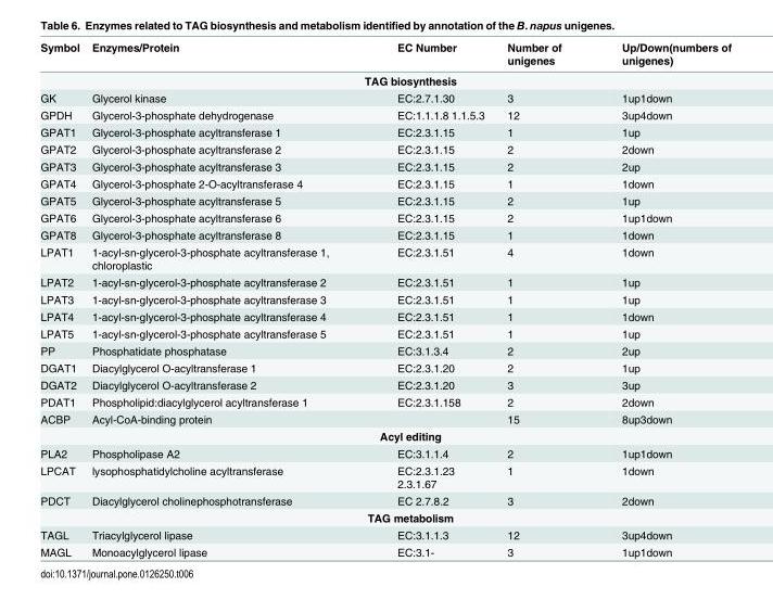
<table><thead><tr><td>Symbol</td><td>Enzymes/Protein</td><td>EC Number</td><td>Number of unigenes</td><td>Up/Down(numbers of unigenes)</td></tr></thead><tbody><tr><td colspan="5">TAG biosynthesis</td></tr><tr><td>GK</td><td>Glycerol kinase</td><td>EC:2.7.1.30</td><td>3</td><td>1up1down</td></tr><tr><td>GPDH</td><td>Glycerol-3-phosphate dehydrogenase</td><td>EC:1.1.1.8 1.1.5.3</td><td>12</td><td>3up4down</td></tr><tr><td>GPAT1</td><td>Glycerol-3-phosphate acyltransferase 1</td><td>EC:2.3.1.15</td><td>1</td><td>1up</td></tr><tr><td>GPAT2</td><td>Glycerol-3-phosphate acyltransferase 2</td><td>EC:2.3.1.15</td><td>2</td><td>2down</td></tr><tr><td>GPAT3</td><td>Glycerol-3-phosphate acyltransferase 3</td><td>EC:2.3.1.15</td><td>2</td><td>2up</td></tr><tr><td>GPAT4</td><td>Glycerol-3-phosphate 2-O-acyltransferase 4</td><td>EC:2.3.1.15</td><td>1</td><td>1down</td></tr><tr><td>GPAT5</td><td>Glycerol-3-phosphate acyltransferase 5</td><td>EC:2.3.1.15</td><td>2</td><td>1up</td></tr><tr><td>GPAT6</td><td>Glycerol-3-phosphate acyltransferase 6</td><td>EC:2.3.1.15</td><td>2</td><td>1up1down</td></tr><tr><td>GPAT8</td><td>Glycerol-3-phosphate acyltransferase 8</td><td>EC:2.3.1.15</td><td>1</td><td>1down</td></tr><tr><td>LPAT1</td><td>1-acyl-sn-glycerol-3-phosphate acyltransferase 1, chloroplastic</td><td>EC:2.3.1.51</td><td>4</td><td>1down</td></tr><tr><td>LPAT2</td><td>1-acyl-sn-glycerol-3-phosphate acyltransferase 2</td><td>EC:2.3.1.51</td><td>1</td><td>1up</td></tr><tr><td>LPAT3</td><td>1-acyl-sn-glycerol-3-phosphate acyltransferase 3</td><td>EC:2.3.1.51</td><td>1</td><td>1up</td></tr><tr><td>LPAT4</td><td>1-acyl-sn-glycerol-3-phosphate acyltransferase 4</td><td>EC:2.3.1.51</td><td>1</td><td>1down</td></tr><tr><td>LPAT5</td><td>1-acyl-sn-glycerol-3-phosphate acyltransferase 5</td><td>EC:2.3.1.51</td><td>1</td><td>1up</td></tr><tr><td>PP</td><td>Phosphatidate phosphatase</td><td>EC:3.1.3.4</td><td>2</td><td>2up</td></tr><tr><td>DGAT1</td><td>Diacylglycerol O-acyltransferase 1</td><td>EC:2.3.1.20</td><td>2</td><td>1up</td></tr><tr><td>DGAT2</td><td>Diacylglycerol O-acyltransferase 2</td><td>EC:2.3.1.20</td><td>3</td><td>3up</td></tr><tr><td>PDAT1</td><td>Phospholipid:diacylglycerol acyltransferase 1</td><td>EC:2.3.1.158</td><td>2</td><td>2down</td></tr><tr><td>ACBP</td><td>Acyl-CoA-binding protein</td><td></td><td>15</td><td>8up3down</td></tr><tr><td colspan="5">Acyl editing</td></tr><tr><td>PLA2</td><td>Phospholipase A2</td><td>EC:3.1.1.4</td><td>2</td><td>1up1down</td></tr><tr><td>LPCAT</td><td>lysophosphatidylcholine acyltransferase</td><td>EC:2.3.1.23 2.3.1.67</td><td>1</td><td>1down</td></tr><tr><td>PDCT</td><td>Diacylglycerol cholinephosphotransferase</td><td>EC 2.7.8.2</td><td>3</td><td>2down</td></tr><tr><td colspan="5">TAG metabolism</td></tr><tr><td>TAGL</td><td>Triacylglycerol lipase</td><td>EC:3.1.1.3</td><td>12</td><td>3up4down</td></tr><tr><td>MAGL</td><td>Monoacylglycerol lipase</td><td>EC:3.1-</td><td>3</td><td>1up1down</td></tr></tbody></table>